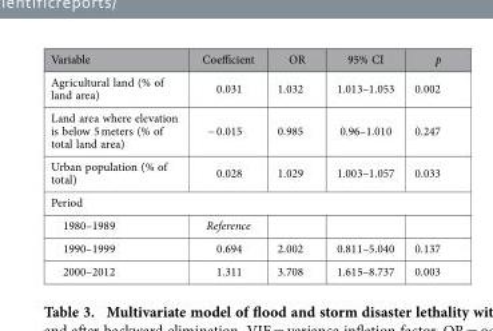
<table><thead><tr><td>Variable</td><td>Coefficient</td><td>OR</td><td>95% CI</td><td>p</td></tr></thead><tbody><tr><td>Agricultural land (% of land area)</td><td>0.031</td><td>1.032</td><td>1.013–1.053</td><td>0.002</td></tr><tr><td>Land area where elevation is below 5 meters (% of total land area)</td><td>− 0.015</td><td>0.985</td><td>0.96–1.010</td><td>0.247</td></tr><tr><td>Urban population (% of total)</td><td>0.028</td><td>1.029</td><td>1.003–1.057</td><td>0.033</td></tr><tr><td colspan="5">Period</td></tr><tr><td>1980–1989</td><td>Reference</td><td></td><td></td><td></td></tr><tr><td>1990–1999</td><td>0.694</td><td>2.002</td><td>0.811–5.040</td><td>0.137</td></tr><tr><td>2000–2012</td><td>1.311</td><td>3.708</td><td>1.615–8.737</td><td>0.003</td></tr></tbody></table>